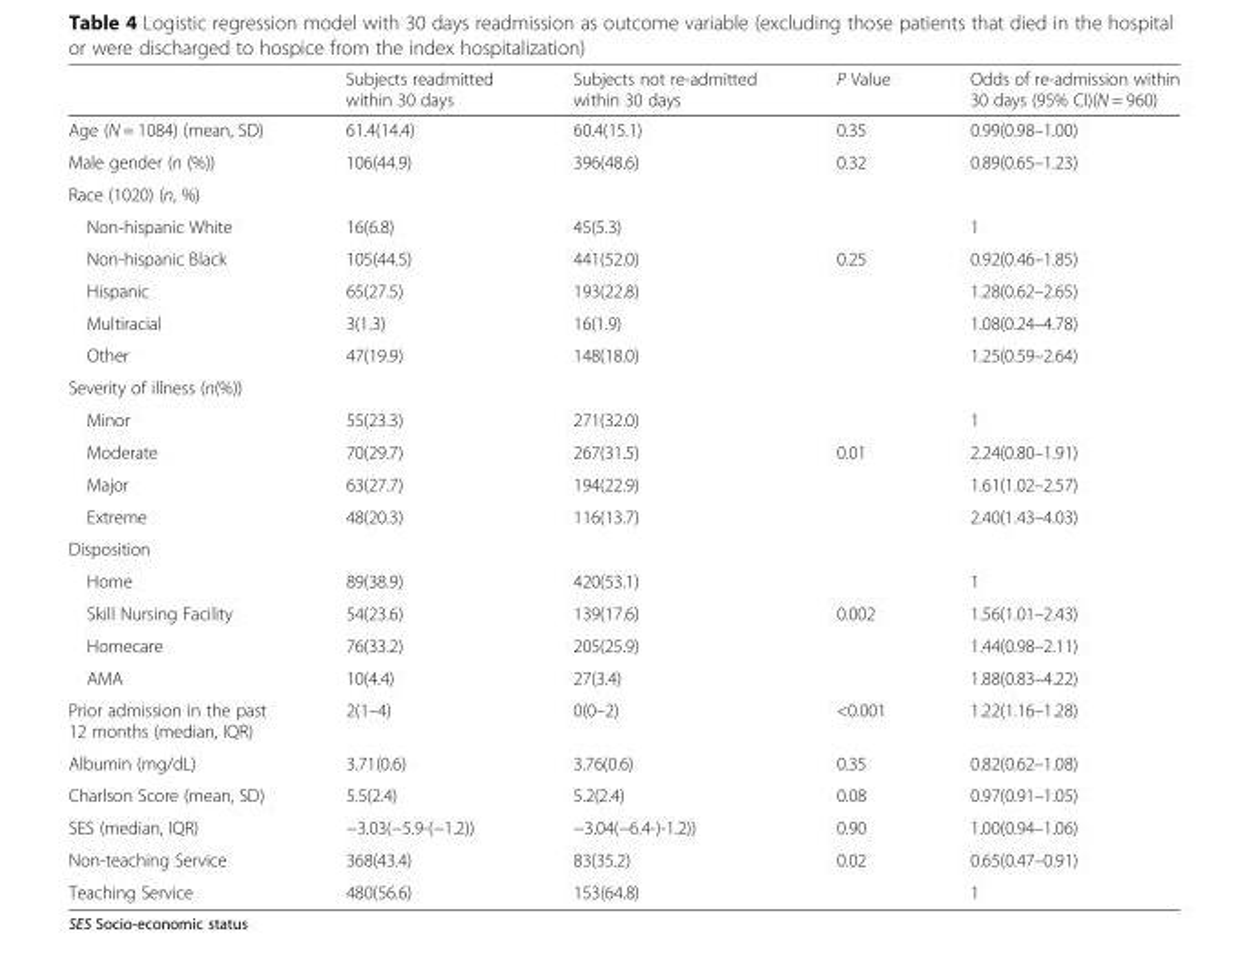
<table><thead><tr><td></td><td>Subjects readmitted within 30 days</td><td>Subjects not re-admitted within 30 days</td><td>P Value</td><td>Odds of re-admission within 30 days (95% CI)(N = 960)</td></tr></thead><tbody><tr><td>Age (N = 1084) (mean, SD)</td><td>61.4(14.4)</td><td>60.4(15.1)</td><td>0.35</td><td>0.99(0.98–1.00)</td></tr><tr><td>Male gender (n (%))</td><td>106(44.9)</td><td>396(48.6)</td><td>0.32</td><td>0.89(0.65–1.23)</td></tr><tr><td colspan="5">Race (1020) (n, %)</td></tr><tr><td>Non-hispanic White</td><td>16(6.8)</td><td>45(5.3)</td><td></td><td>1</td></tr><tr><td>Non-hispanic Black</td><td>105(44.5)</td><td>441(52.0)</td><td>0.25</td><td>0.92(0.46–1.85)</td></tr><tr><td>Hispanic</td><td>65(27.5)</td><td>193(22.8)</td><td></td><td>1.28(0.62–2.65)</td></tr><tr><td>Multiracial</td><td>3(1.3)</td><td>16(1.9)</td><td></td><td>1.08(0.24–4.78)</td></tr><tr><td>Other</td><td>47(19.9)</td><td>148(18.0)</td><td></td><td>1.25(0.59–2.64)</td></tr><tr><td colspan="5">Severity of illness (n(%))</td></tr><tr><td>Minor</td><td>55(23.3)</td><td>271(32.0)</td><td></td><td>1</td></tr><tr><td>Moderate</td><td>70(29.7)</td><td>267(31.5)</td><td>0.01</td><td>2.24(0.80–1.91)</td></tr><tr><td>Major</td><td>63(27.7)</td><td>194(22.9)</td><td></td><td>1.61(1.02–2.57)</td></tr><tr><td>Extreme</td><td>48(20.3)</td><td>116(13.7)</td><td></td><td>2.40(1.43–4.03)</td></tr><tr><td colspan="5">Disposition</td></tr><tr><td>Home</td><td>89(38.9)</td><td>420(53.1)</td><td></td><td>1</td></tr><tr><td>Skill Nursing Facility</td><td>54(23.6)</td><td>139(17.6)</td><td>0.002</td><td>1.56(1.01–2.43)</td></tr><tr><td>Homecare</td><td>76(33.2)</td><td>205(25.9)</td><td></td><td>1.44(0.98–2.11)</td></tr><tr><td>AMA</td><td>10(4.4)</td><td>27(3.4)</td><td></td><td>1.88(0.83–4.22)</td></tr><tr><td>Prior admission in the past 12 months (median, IQR)</td><td>2(1–4)</td><td>0(0–2)</td><td>&lt;0.001</td><td>1.22(1.16–1.28)</td></tr><tr><td>Albumin (mg/dL)</td><td>3.71(0.6)</td><td>3.76(0.6)</td><td>0.35</td><td>0.82(0.62–1.08)</td></tr><tr><td>Charlson Score (mean, SD)</td><td>5.5(2.4)</td><td>5.2(2.4)</td><td>0.08</td><td>0.97(0.91–1.05)</td></tr><tr><td>SES (median, IQR)</td><td>−3.03(−5.9-(−1.2))</td><td>−3.04(−6.4-)-1.2))</td><td>0.90</td><td>1.00(0.94–1.06)</td></tr><tr><td>Non-teaching Service</td><td>368(43.4)</td><td>83(35.2)</td><td>0.02</td><td>0.65(0.47–0.91)</td></tr><tr><td>Teaching Service</td><td>480(56.6)</td><td>153(64.8)</td><td></td><td>1</td></tr></tbody></table>